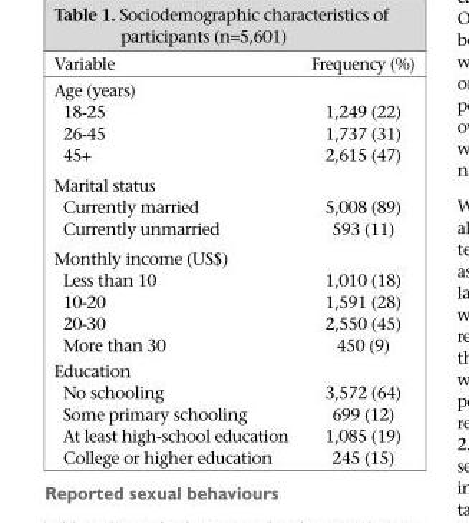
<table><thead><tr><td>Variable</td><td>Frequency (%)</td></tr></thead><tbody><tr><td colspan="2">Age (years)</td></tr><tr><td>18-25</td><td>1,249 (22)</td></tr><tr><td>26-45</td><td>1,737 (31)</td></tr><tr><td>45+</td><td>2,615 (47)</td></tr><tr><td colspan="2">Marital status</td></tr><tr><td>Currently married</td><td>5,008 (89)</td></tr><tr><td>Currently unmarried</td><td>593 (11)</td></tr><tr><td colspan="2">Monthly income (US$)</td></tr><tr><td>Less than 10</td><td>1,010 (18)</td></tr><tr><td>10-20</td><td>1,591 (28)</td></tr><tr><td>20-30</td><td>2,550 (45)</td></tr><tr><td>More than 30</td><td>450 (9)</td></tr><tr><td colspan="2">Education</td></tr><tr><td>No schooling</td><td>3,572 (64)</td></tr><tr><td>Some primary schooling</td><td>699 (12)</td></tr><tr><td>At least high-school education</td><td>1,085 (19)</td></tr><tr><td>College or higher education</td><td>245 (15)</td></tr></tbody></table>